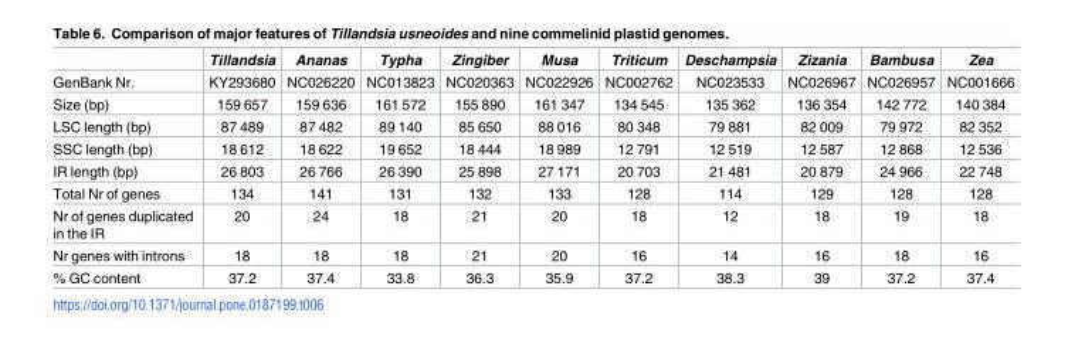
<table><thead><tr><td></td><td>Tillandsia</td><td>Ananas</td><td>Typha</td><td>Zingiber</td><td>Musa</td><td>Triticum</td><td>Deschampsia</td><td>Zizania</td><td>Bambusa</td><td>Zea</td></tr></thead><tbody><tr><td>GenBank Nr.</td><td>KY293680</td><td>NC026220</td><td>NC013823</td><td>NC020363</td><td>NC022926</td><td>NC002762</td><td>NC023533</td><td>NC026967</td><td>NC026957</td><td>NC001666</td></tr><tr><td>Size (bp)</td><td>159 657</td><td>159 636</td><td>161 572</td><td>155 890</td><td>161 347</td><td>134 545</td><td>135 362</td><td>136 354</td><td>142 772</td><td>140 384</td></tr><tr><td>LSC length (bp)</td><td>87 489</td><td>87 482</td><td>89 140</td><td>85 650</td><td>88 016</td><td>80 348</td><td>79 881</td><td>82 009</td><td>79 972</td><td>82 352</td></tr><tr><td>SSC length (bp)</td><td>18 612</td><td>18 622</td><td>19 652</td><td>18 444</td><td>18 989</td><td>12 791</td><td>12 519</td><td>12 587</td><td>12 868</td><td>12 536</td></tr><tr><td>IR length (bp)</td><td>26 803</td><td>26 766</td><td>26 390</td><td>25 898</td><td>27 171</td><td>20 703</td><td>21 481</td><td>20 879</td><td>24 966</td><td>22 748</td></tr><tr><td>Total Nr of genes</td><td>134</td><td>141</td><td>131</td><td>132</td><td>133</td><td>128</td><td>114</td><td>129</td><td>128</td><td>128</td></tr><tr><td>Nr of genes duplicated in the IR</td><td>20</td><td>24</td><td>18</td><td>21</td><td>20</td><td>18</td><td>12</td><td>18</td><td>19</td><td>18</td></tr><tr><td>Nr genes with introns</td><td>18</td><td>18</td><td>18</td><td>21</td><td>20</td><td>16</td><td>14</td><td>16</td><td>18</td><td>16</td></tr><tr><td>% GC content</td><td>37.2</td><td>37.4</td><td>33.8</td><td>36.3</td><td>35.9</td><td>37.2</td><td>38.3</td><td>39</td><td>37.2</td><td>37.4</td></tr></tbody></table>